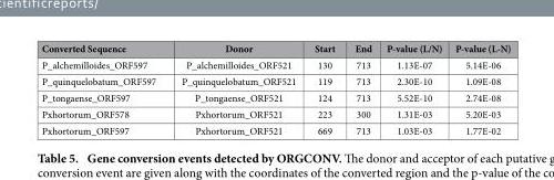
<table><thead><tr><td>Converted Sequence</td><td>Donor</td><td>Start</td><td>End</td><td>P-value (L/N)</td><td>P-value (L-N)</td></tr></thead><tbody><tr><td>P_alchemilloides_ORF597</td><td>P_alchemilloides_ORF521</td><td>130</td><td>713</td><td>1.13E-07</td><td>5.14E-06</td></tr><tr><td>P_quinquelobatum_ORF597</td><td>P_quinquelobatum_ORF521</td><td>119</td><td>713</td><td>2.30E-10</td><td>1.09E-08</td></tr><tr><td>P_tongaense_ORF597</td><td>P_tongaense_ORF521</td><td>124</td><td>713</td><td>5.52E-10</td><td>2.74E-08</td></tr><tr><td>Pxhortorum_ORF578</td><td>Pxhortorum_ORF521</td><td>223</td><td>300</td><td>1.31E-03</td><td>5.20E-03</td></tr><tr><td>Pxhortorum_ORF597</td><td>Pxhortorum_ORF521</td><td>669</td><td>713</td><td>1.03E-03</td><td>1.77E-02</td></tr></tbody></table>